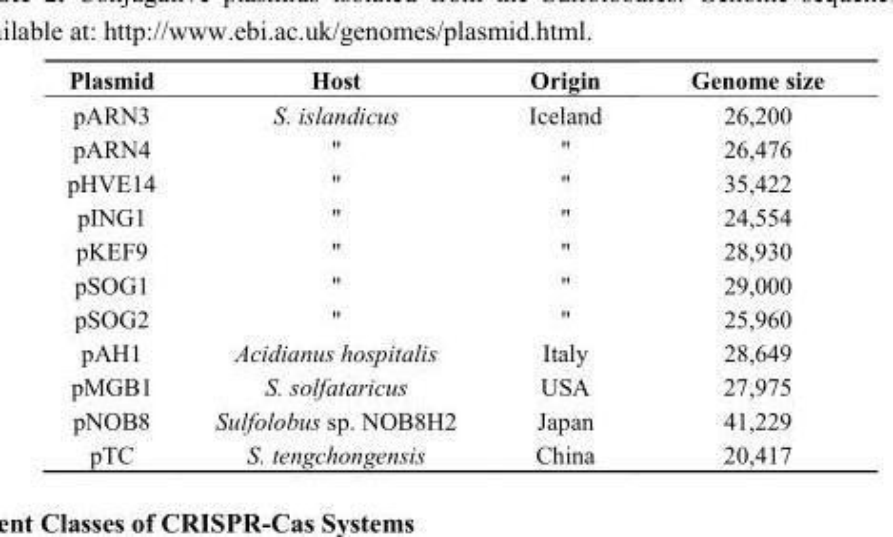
<table><thead><tr><td>Plasmid</td><td>Host</td><td>Origin</td><td>Genome size</td></tr></thead><tbody><tr><td>pARN3</td><td>S. islandicus</td><td>Iceland</td><td>26,200</td></tr><tr><td>pARN4</td><td>&quot;</td><td>&quot;</td><td>26,476</td></tr><tr><td>pHVE14</td><td>&quot;</td><td>&quot;</td><td>35,422</td></tr><tr><td>pING1</td><td>&quot;</td><td>&quot;</td><td>24,554</td></tr><tr><td>pKEF9</td><td>&quot;</td><td>&quot;</td><td>28,930</td></tr><tr><td>pSOG1</td><td>&quot;</td><td>&quot;</td><td>29,000</td></tr><tr><td>pSOG2</td><td>&quot;</td><td>&quot;</td><td>25,960</td></tr><tr><td>pAH1</td><td>Acidianus hospitalis</td><td>Italy</td><td>28,649</td></tr><tr><td>pMGB1</td><td>S. solfataricus</td><td>USA</td><td>27,975</td></tr><tr><td>pNOB8</td><td>Sulfolobus sp. NOB8H2</td><td>Japan</td><td>41,229</td></tr><tr><td>pTC</td><td>S. tengchongensis</td><td>China</td><td>20,417</td></tr></tbody></table>